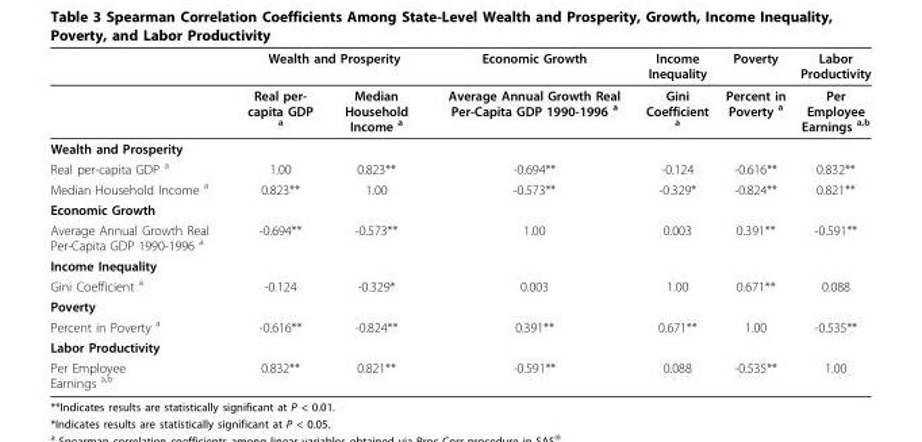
<table><thead><tr><td rowspan="2"></td><td colspan="2">Wealth and Prosperity</td><td rowspan="2">Economic Growth Average Annual Growth Real Per-Capita GDP 1990-1996 a</td><td rowspan="2">Income Inequality Gini Coefficient a</td><td rowspan="2">Poverty Percent in Poverty a</td><td rowspan="2">Labor Productivity Per Employee Earnings a,b</td></tr><tr><td>Real per- capita GDP a</td><td>Median Household Income a</td></tr></thead><tbody><tr><td colspan="7">Wealth and Prosperity</td></tr><tr><td>Real per-capita GDP a</td><td>1.00</td><td>0.823**</td><td>-0.694**</td><td>-0.124</td><td>-0.616**</td><td>0.832**</td></tr><tr><td>Median Household Income a</td><td>0.823**</td><td>1.00</td><td>-0.573**</td><td>-0.329*</td><td>-0.824**</td><td>0.821**</td></tr><tr><td colspan="7">Economic Growth</td></tr><tr><td>Average Annual Growth Real Per-Capita GDP 1990-1996 <sup>a</sup></td><td>-0.694**</td><td>-0.573**</td><td>1.00</td><td>0.003</td><td>0.391**</td><td>-0.591**</td></tr><tr><td colspan="7">Income Inequality</td></tr><tr><td>Gini Coefficient <sup>a</sup></td><td>-0.124</td><td>-0.329*</td><td>0.003</td><td>1.00</td><td>0.671**</td><td>0.088</td></tr><tr><td colspan="7">Poverty</td></tr><tr><td>Percent in Poverty <sup>a</sup></td><td>-0.616**</td><td>-0.824**</td><td>0.391**</td><td>0.671**</td><td>1.00</td><td>-0.535**</td></tr><tr><td colspan="7">Labor Productivity</td></tr><tr><td>Per Employee Earnings <sup>a,b</sup></td><td>0.832**</td><td>0.821**</td><td>-0.591**</td><td>0.088</td><td>-0.535**</td><td>1.00</td></tr></tbody></table>